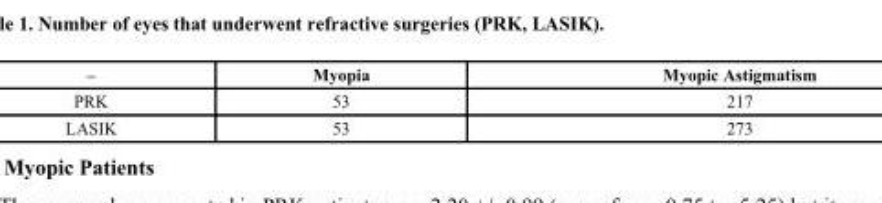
<table><thead><tr><td>–</td><td>Myopia</td><td>Myopic Astigmatism</td></tr></thead><tbody><tr><td>PRK</td><td>53</td><td>217</td></tr><tr><td>LASIK</td><td>53</td><td>273</td></tr></tbody></table>